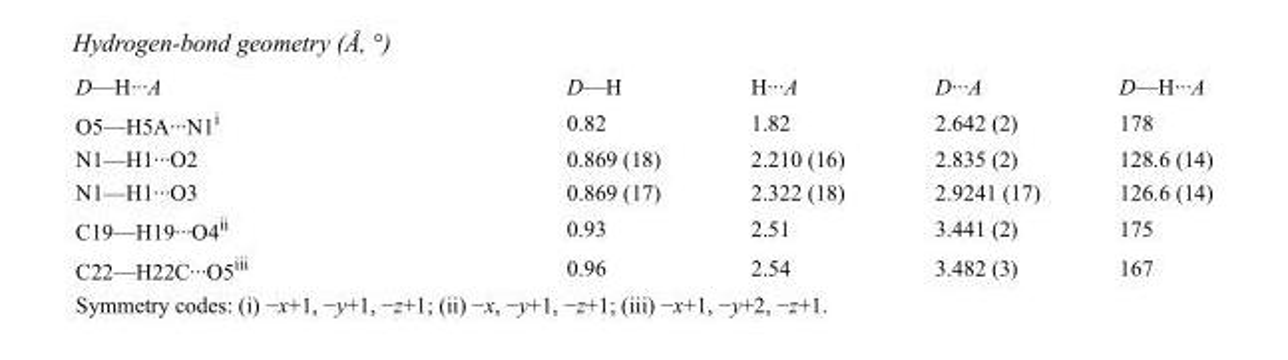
<table><tbody><tr><td>D—H···A</td><td>D—H</td><td>H···A</td><td>D···A</td><td>D—H···A</td></tr><tr><td>O5—H5A···N1<sup>i</sup></td><td>0.82</td><td>1.82</td><td>2.642 (2)</td><td>178</td></tr><tr><td>N1—H1···O2</td><td>0.869 (18)</td><td>2.210 (16)</td><td>2.835 (2)</td><td>128.6 (14)</td></tr><tr><td>N1—H1···O3</td><td>0.869 (17)</td><td>2.322 (18)</td><td>2.9241 (17)</td><td>126.6 (14)</td></tr><tr><td>C19—H19···O4<sup>ii</sup></td><td>0.93</td><td>2.51</td><td>3.441 (2)</td><td>175</td></tr><tr><td>C22—H22C···O5<sup>iii</sup></td><td>0.96</td><td>2.54</td><td>3.482 (3)</td><td>167</td></tr></tbody></table>